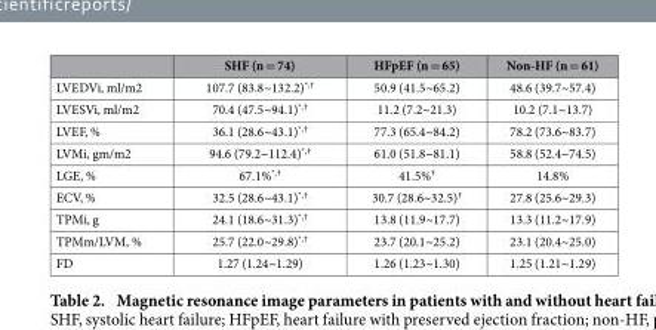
<table><thead><tr><td></td><td>SHF (n = 74)</td><td>HFpEF (n = 65)</td><td>Non-HF (n = 61)</td></tr></thead><tbody><tr><td>LVEDVi, ml/m2</td><td>107.7 (83.8~132.2)*,†</td><td>50.9 (41.5~65.2)</td><td>48.6 (39.7~57.4)</td></tr><tr><td>LVESVi, ml/m2</td><td>70.4 (47.5~94.1)*,†</td><td>11.2 (7.2~21.3)</td><td>10.2 (7.1~13.7)</td></tr><tr><td>LVEF, %</td><td>36.1 (28.6~43.1)*,†</td><td>77.3 (65.4~84.2)</td><td>78.2 (73.6~83.7)</td></tr><tr><td>LVMi, gm/m2</td><td>94.6 (79.2~112.4)*,†</td><td>61.0 (51.8~81.1)</td><td>58.8 (52.4~74.5)</td></tr><tr><td>LGE, %</td><td>67.1%*,†</td><td>41.5%†</td><td>14.8%</td></tr><tr><td>ECV, %</td><td>32.5 (28.6~43.1)*,†</td><td>30.7 (28.6~32.5)†</td><td>27.8 (25.6~29.3)</td></tr><tr><td>TPMi, g</td><td>24.1 (18.6~31.3)*,†</td><td>13.8 (11.9~17.7)</td><td>13.3 (11.2~17.9)</td></tr><tr><td>TPMm/LVM, %</td><td>25.7 (22.0~29.8)*,†</td><td>23.7 (20.1~25.2)</td><td>23.1 (20.4~25.0)</td></tr><tr><td>FD</td><td>1.27 (1.24~1.29)</td><td>1.26 (1.23~1.30)</td><td>1.25 (1.21~1.29)</td></tr></tbody></table>